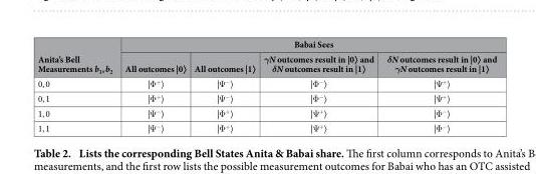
<table><thead><tr><td rowspan="2">Anita’s Bell Measurements b<sub>1</sub>, b<sub>2</sub></td><td colspan="4">Babai Sees</td></tr><tr><td>All outcomes |0〉</td><td>All outcomes |1〉</td><td>γN outcomes result in |0〉 and δN outcomes result in |1〉</td><td>δN outcomes result in |0〉 and γN outcomes result in |1〉</td></tr></thead><tbody><tr><td>0, 0</td><td>|Φ <sup>+</sup>〉</td><td>|Ψ <sup>−</sup>〉</td><td>|Φ <sup>−</sup>〉</td><td>|Ψ <sup>+</sup>〉</td></tr><tr><td>0, 1</td><td>|Φ <sup>+</sup>〉</td><td>|Ψ <sup>−</sup>〉</td><td>|Φ <sup>−</sup>〉</td><td>|Ψ <sup>+</sup>〉</td></tr><tr><td>1, 0</td><td>|Ψ <sup>−</sup>〉</td><td>|Φ <sup>+</sup>〉</td><td>|Ψ <sup>+</sup>〉</td><td>|Φ <sup>−</sup>〉</td></tr><tr><td>1, 1</td><td>|Ψ <sup>−</sup>〉</td><td>|Φ <sup>+</sup>〉</td><td>|Ψ <sup>+</sup>〉</td><td>|Φ <sup>−</sup>〉</td></tr></tbody></table>